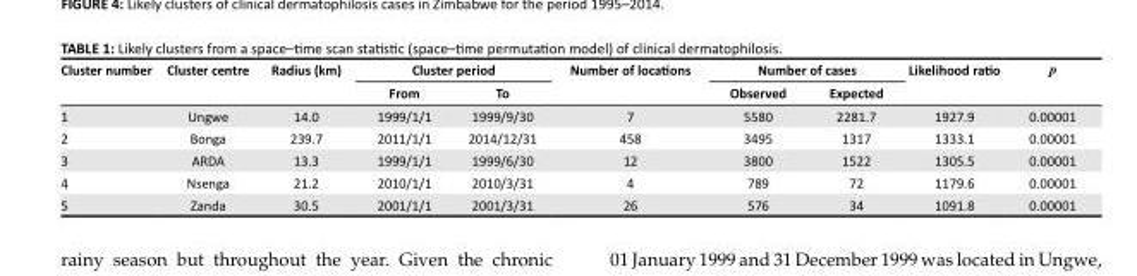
<table><thead><tr><td rowspan="2">Cluster number</td><td rowspan="2">Cluster centre</td><td rowspan="2">Radius (km)</td><td colspan="2">Cluster period</td><td rowspan="2">Number of locations</td><td colspan="2">Number of cases</td><td rowspan="2">Likelihood ratio</td><td rowspan="2">p</td></tr><tr><td>From</td><td>To</td><td>Observed</td><td>Expected</td></tr></thead><tbody><tr><td>1</td><td>Ungwe</td><td>14.0</td><td>1999/1/1</td><td>1999/9/30</td><td>7</td><td>5580</td><td>2281.7</td><td>1927.9</td><td>0.00001</td></tr><tr><td>2</td><td>Bonga</td><td>239.7</td><td>2011/1/1</td><td>2014/12/31</td><td>458</td><td>3495</td><td>1317</td><td>1333.1</td><td>0.00001</td></tr><tr><td>3</td><td>ARDA</td><td>13.3</td><td>1999/1/1</td><td>1999/6/30</td><td>12</td><td>3800</td><td>1522</td><td>1305.5</td><td>0.00001</td></tr><tr><td>4</td><td>Nsenga</td><td>21.2</td><td>2010/1/1</td><td>2010/3/31</td><td>4</td><td>789</td><td>72</td><td>1179.6</td><td>0.00001</td></tr><tr><td>5</td><td>Zanda</td><td>30.5</td><td>2001/1/1</td><td>2001/3/31</td><td>26</td><td>576</td><td>34</td><td>1091.8</td><td>0.00001</td></tr></tbody></table>